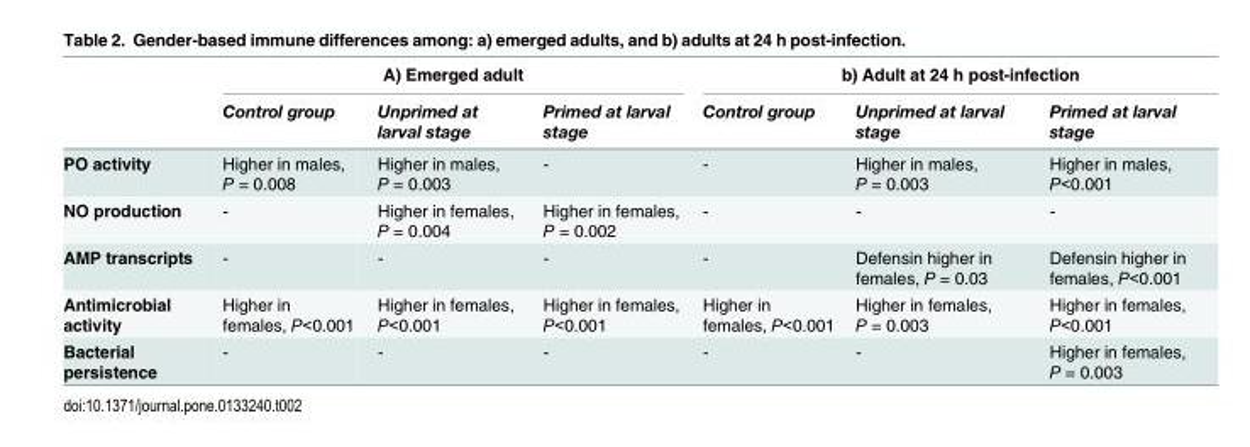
<table><thead><tr><td rowspan="2"></td><td colspan="3">A) Emerged adult</td><td colspan="3">b) Adult at 24 h post-infection</td></tr><tr><td>Control group</td><td>Unprimed at larval stage</td><td>Primed at larval stage</td><td>Control group</td><td>Unprimed at larval stage</td><td>Primed at larval stage</td></tr></thead><tbody><tr><td>PO activity</td><td>Higher in males, P = 0.008</td><td>Higher in males, P = 0.003</td><td>-</td><td>-</td><td>Higher in males, P = 0.003</td><td>Higher in males, P&lt;0.001</td></tr><tr><td>NO production</td><td>-</td><td>Higher in females, P = 0.004</td><td>Higher in females, P = 0.002</td><td>-</td><td>-</td><td>-</td></tr><tr><td>AMP transcripts</td><td>-</td><td>-</td><td>-</td><td>-</td><td>Defensin higher in females, P = 0.03</td><td>Defensin higher in females, P&lt;0.001</td></tr><tr><td>Antimicrobial activity</td><td>Higher in females, P&lt;0.001</td><td>Higher in females, P&lt;0.001</td><td>Higher in females, P&lt;0.001</td><td>Higher in females, P&lt;0.001</td><td>Higher in females, P = 0.003</td><td>Higher in females, P&lt;0.001</td></tr><tr><td>Bacterial persistence</td><td>-</td><td>-</td><td>-</td><td>-</td><td>-</td><td>Higher in females, P = 0.003</td></tr></tbody></table>